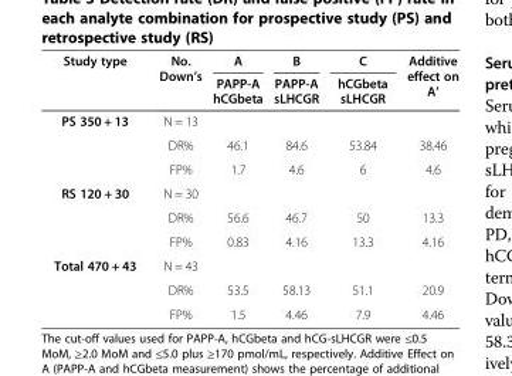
<table><thead><tr><td rowspan="2">Study type</td><td rowspan="2">No. Down’s</td><td rowspan="2">A PAPP-A hCGbeta</td><td rowspan="2">B PAPP-A sLHCGR</td><td rowspan="2">C hCGbeta sLHCGR</td><td rowspan="2">Additive effect on A’</td></tr><tr></tr></thead><tbody><tr><td rowspan="3">PS 350 + 13</td><td>N = 13</td><td></td><td></td><td></td><td></td></tr><tr><td>DR%</td><td>46.1</td><td>84.6</td><td>53.84</td><td>38.46</td></tr><tr><td>FP%</td><td>1.7</td><td>4.6</td><td>6</td><td>4.6</td></tr><tr><td rowspan="3">RS 120 + 30</td><td>N = 30</td><td></td><td></td><td></td><td></td></tr><tr><td>DR%</td><td>56.6</td><td>46.7</td><td>50</td><td>13.3</td></tr><tr><td>FP%</td><td>0.83</td><td>4.16</td><td>13.3</td><td>4.16</td></tr><tr><td rowspan="3">Total 470 + 43</td><td>N = 43</td><td></td><td></td><td></td><td></td></tr><tr><td>DR%</td><td>53.5</td><td>58.13</td><td>51.1</td><td>20.9</td></tr><tr><td>FP%</td><td>1.5</td><td>4.46</td><td>7.9</td><td>4.46</td></tr></tbody></table>